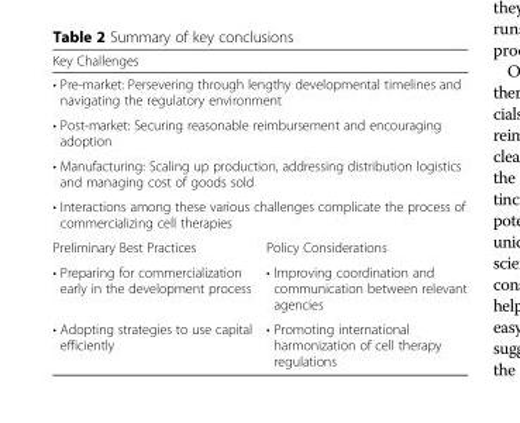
<table><thead><tr><td colspan="2">Key Challenges</td></tr></thead><tbody><tr><td colspan="2">• Pre-market: Persevering through lengthy developmental timelines and navigating the regulatory environment</td></tr><tr><td colspan="2">• Post-market: Securing reasonable reimbursement and encouraging adoption</td></tr><tr><td colspan="2">• Manufacturing: Scaling up production, addressing distribution logistics and managing cost of goods sold</td></tr><tr><td colspan="2">• Interactions among these various challenges complicate the process of commercializing cell therapies</td></tr><tr><td>Preliminary Best Practices</td><td>Policy Considerations</td></tr><tr><td>• Preparing for commercialization early in the development process</td><td>• Improving coordination and communication between relevant agencies</td></tr><tr><td>• Adopting strategies to use capital efficiently</td><td>• Promoting international harmonization of cell therapy regulations</td></tr></tbody></table>